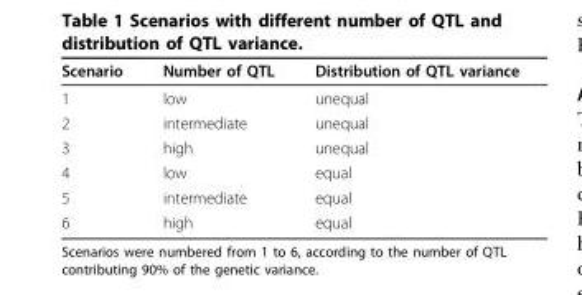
<table><thead><tr><td>Scenario</td><td>Number of QTL</td><td>Distribution of QTL variance</td></tr></thead><tbody><tr><td>1</td><td>low</td><td>unequal</td></tr><tr><td>2</td><td>intermediate</td><td>unequal</td></tr><tr><td>3</td><td>high</td><td>unequal</td></tr><tr><td>4</td><td>low</td><td>equal</td></tr><tr><td>5</td><td>intermediate</td><td>equal</td></tr><tr><td>6</td><td>high</td><td>equal</td></tr></tbody></table>